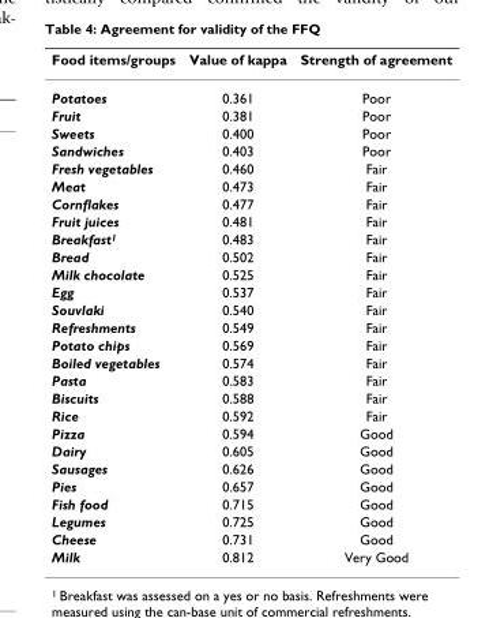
<table><thead><tr><td>Food items/groups</td><td>Value of kappa</td><td>Strength of agreement</td></tr></thead><tbody><tr><td>Potatoes</td><td>0.361</td><td>Poor</td></tr><tr><td>Fruit</td><td>0.381</td><td>Poor</td></tr><tr><td>Sweets</td><td>0.400</td><td>Poor</td></tr><tr><td>Sandwiches</td><td>0.403</td><td>Poor</td></tr><tr><td>Fresh vegetables</td><td>0.460</td><td>Fair</td></tr><tr><td>Meat</td><td>0.473</td><td>Fair</td></tr><tr><td>Cornflakes</td><td>0.477</td><td>Fair</td></tr><tr><td>Fruit juices</td><td>0.481</td><td>Fair</td></tr><tr><td>Breakfast<sup>1</sup></td><td>0.483</td><td>Fair</td></tr><tr><td>Bread</td><td>0.502</td><td>Fair</td></tr><tr><td>Milk chocolate</td><td>0.525</td><td>Fair</td></tr><tr><td>Egg</td><td>0.537</td><td>Fair</td></tr><tr><td>Souvlaki</td><td>0.540</td><td>Fair</td></tr><tr><td>Refreshments</td><td>0.549</td><td>Fair</td></tr><tr><td>Potato chips</td><td>0.569</td><td>Fair</td></tr><tr><td>Boiled vegetables</td><td>0.574</td><td>Fair</td></tr><tr><td>Pasta</td><td>0.583</td><td>Fair</td></tr><tr><td>Biscuits</td><td>0.588</td><td>Fair</td></tr><tr><td>Rice</td><td>0.592</td><td>Fair</td></tr><tr><td>Pizza</td><td>0.594</td><td>Good</td></tr><tr><td>Dairy</td><td>0.605</td><td>Good</td></tr><tr><td>Sausages</td><td>0.626</td><td>Good</td></tr><tr><td>Pies</td><td>0.657</td><td>Good</td></tr><tr><td>Fish food</td><td>0.715</td><td>Good</td></tr><tr><td>Legumes</td><td>0.725</td><td>Good</td></tr><tr><td>Cheese</td><td>0.731</td><td>Good</td></tr><tr><td>Milk</td><td>0.812</td><td>Very Good</td></tr></tbody></table>